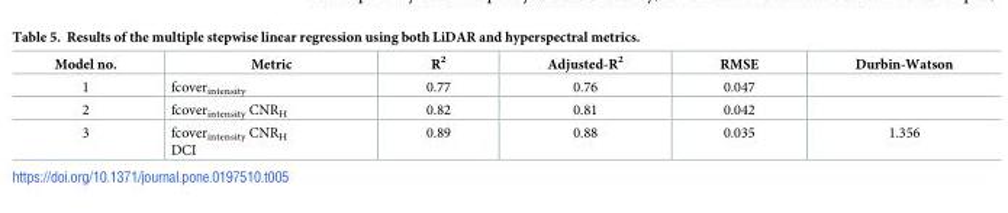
<table><thead><tr><td>Model no.</td><td>Metric</td><td>R<sup>2</sup></td><td>Adjusted-R<sup>2</sup></td><td>RMSE</td><td>Durbin-Watson</td></tr></thead><tbody><tr><td>1</td><td>fcover<sub>intensity</sub></td><td>0.77</td><td>0.76</td><td>0.047</td><td></td></tr><tr><td>2</td><td>fcover<sub>intensity</sub> CNR<sub>H</sub></td><td>0.82</td><td>0.81</td><td>0.042</td><td></td></tr><tr><td>3</td><td>fcover<sub>intensity</sub> CNR<sub>H</sub> DCI</td><td>0.89</td><td>0.88</td><td>0.035</td><td>1.356</td></tr></tbody></table>